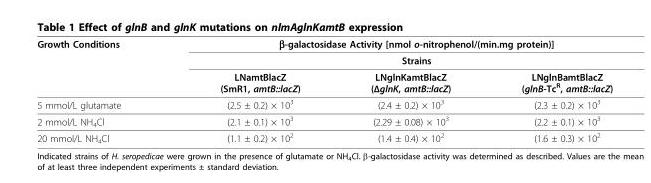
<table><thead><tr><td rowspan="3">Growth Conditions</td><td rowspan="2" colspan="3">β-galactosidase Activity [nmol o-nitrophenol/(min.mg protein)] Strains</td></tr><tr></tr><tr><td>LNamtBlacZ (SmR1, amtB::lacZ)</td><td>LNglnKamtBlacZ (ΔglnK, amtB::lacZ)</td><td>LNglnBamtBlacZ (glnB-Tc<sup>R</sup>, amtB::lacZ)</td></tr></thead><tbody><tr><td>5 mmol/L glutamate</td><td>(2.5 ± 0.2) × 10<sup>3</sup></td><td>(2.4 ± 0.2) × 10<sup>3</sup></td><td>(2.3 ± 0.2) × 10<sup>3</sup></td></tr><tr><td>2 mmol/L NH<sub>4</sub>Cl</td><td>(2.1 ± 0.1) × 10<sup>3</sup></td><td>(2.29 ± 0.08) × 10<sup>3</sup></td><td>(2.2 ± 0.1) × 10<sup>3</sup></td></tr><tr><td>20 mmol/L NH<sub>4</sub>Cl</td><td>(1.1 ± 0.2) × 10<sup>2</sup></td><td>(1.4 ± 0.4) × 10<sup>2</sup></td><td>(1.6 ± 0.3) × 10<sup>2</sup></td></tr></tbody></table>